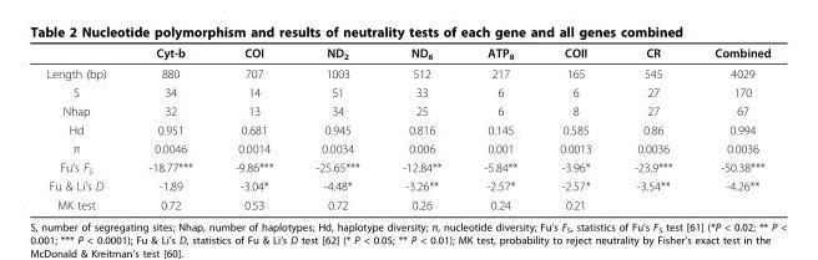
<table><thead><tr><td></td><td>Cyt-b</td><td>COI</td><td>ND<sub>2</sub></td><td>ND<sub>6</sub></td><td>ATP<sub>8</sub></td><td>COII</td><td>CR</td><td>Combined</td></tr></thead><tbody><tr><td>Length (bp)</td><td>880</td><td>707</td><td>1003</td><td>512</td><td>217</td><td>165</td><td>545</td><td>4029</td></tr><tr><td>S</td><td>34</td><td>14</td><td>51</td><td>33</td><td>6</td><td>6</td><td>27</td><td>170</td></tr><tr><td>Nhap</td><td>32</td><td>13</td><td>34</td><td>25</td><td>6</td><td>8</td><td>27</td><td>67</td></tr><tr><td>Hd</td><td>0.951</td><td>0.681</td><td>0.945</td><td>0.816</td><td>0.145</td><td>0.585</td><td>0.86</td><td>0.994</td></tr><tr><td>π</td><td>0.0046</td><td>0.0014</td><td>0.0034</td><td>0.006</td><td>0.001</td><td>0.0013</td><td>0.0036</td><td>0.0036</td></tr><tr><td>Fu’s F<sub>S</sub></td><td>-18.77***</td><td>-9.86***</td><td>-25.65***</td><td>-12.84**</td><td>-5.84**</td><td>-3.96*</td><td>-23.9***</td><td>-50.38***</td></tr><tr><td>Fu &amp; Li’s D</td><td>-1.89</td><td>-3.04*</td><td>-4.48*</td><td>-3.26**</td><td>-2.57*</td><td>-2.57*</td><td>-3.54**</td><td>-4.26**</td></tr><tr><td>MK test</td><td>0.72</td><td>0.53</td><td>0.72</td><td>0.26</td><td>0.24</td><td>0.21</td><td></td><td></td></tr></tbody></table>